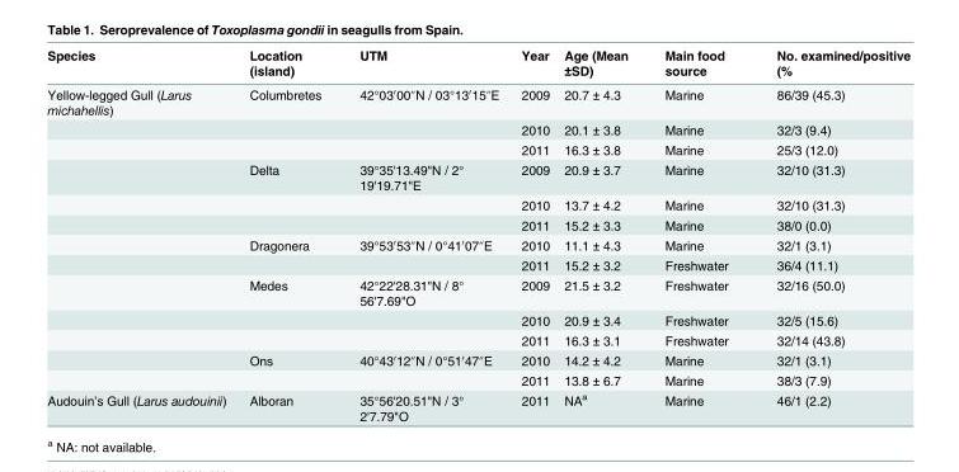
<table><thead><tr><td>Species</td><td>Location (island)</td><td>UTM</td><td>Year</td><td>Age (Mean ±SD)</td><td>Main food source</td><td>No. examined/positive (%</td></tr></thead><tbody><tr><td rowspan="13">Yellow-legged Gull (Larus michahellis)</td><td>Columbretes</td><td>42°03′00″N / 03°13′15″E</td><td>2009</td><td>20.7 ± 4.3</td><td>Marine</td><td>86/39 (45.3)</td></tr><tr><td></td><td></td><td>2010</td><td>20.1 ± 3.8</td><td>Marine</td><td>32/3 (9.4)</td></tr><tr><td></td><td></td><td>2011</td><td>16.3 ± 3.8</td><td>Marine</td><td>25/3 (12.0)</td></tr><tr><td>Delta</td><td>39°35&#x27;13.49&quot;N / 2° 19&#x27;19.71&quot;E</td><td>2009</td><td>20.9 ± 3.7</td><td>Marine</td><td>32/10 (31.3)</td></tr><tr><td></td><td></td><td>2010</td><td>13.7 ± 4.2</td><td>Marine</td><td>32/10 (31.3)</td></tr><tr><td></td><td></td><td>2011</td><td>15.2 ± 3.3</td><td>Marine</td><td>38/0 (0.0)</td></tr><tr><td>Dragonera</td><td>39°53′53″N / 0°41′07″E</td><td>2010</td><td>11.1 ± 4.3</td><td>Marine</td><td>32/1 (3.1)</td></tr><tr><td></td><td></td><td>2011</td><td>15.2 ± 3.2</td><td>Freshwater</td><td>36/4 (11.1)</td></tr><tr><td>Medes</td><td>42°22&#x27;28.31&quot;N / 8° 56&#x27;7.69&quot;O</td><td>2009</td><td>21.5 ± 3.2</td><td>Freshwater</td><td>32/16 (50.0)</td></tr><tr><td></td><td></td><td>2010</td><td>20.9 ± 3.4</td><td>Freshwater</td><td>32/5 (15.6)</td></tr><tr><td></td><td></td><td>2011</td><td>16.3 ± 3.1</td><td>Freshwater</td><td>32/14 (43.8)</td></tr><tr><td>Ons</td><td>40°43′12″N / 0°51′47″E</td><td>2010</td><td>14.2 ± 4.2</td><td>Marine</td><td>32/1 (3.1)</td></tr><tr><td></td><td></td><td>2011</td><td>13.8 ± 6.7</td><td>Marine</td><td>38/3 (7.9)</td></tr><tr><td>Audouin’s Gull (Larus audouinii)</td><td>Alboran</td><td>35°56&#x27;20.51&quot;N / 3° 2&#x27;7.79&quot;O</td><td>2011</td><td>NA<sup>a</sup></td><td>Marine</td><td>46/1 (2.2)</td></tr></tbody></table>